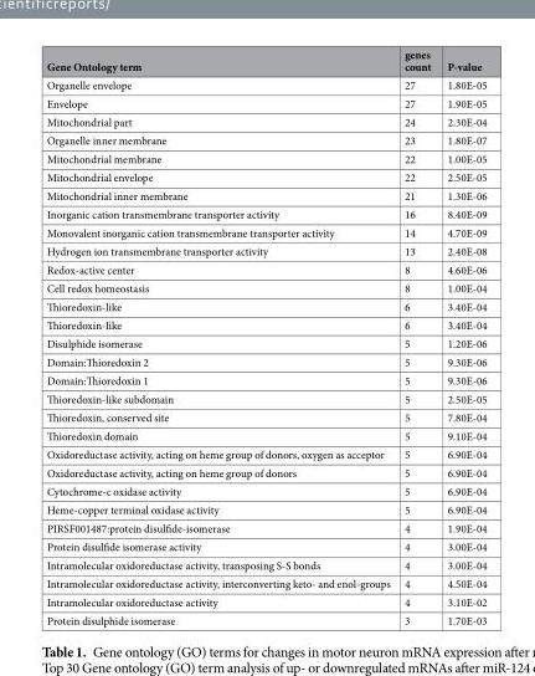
<table><thead><tr><td>Gene Ontology term</td><td>genes count</td><td>P-value</td></tr></thead><tbody><tr><td>Organelle envelope</td><td>27</td><td>1.80E-05</td></tr><tr><td>Envelope</td><td>27</td><td>1.90E-05</td></tr><tr><td>Mitochondrial part</td><td>24</td><td>2.30E-04</td></tr><tr><td>Organelle inner membrane</td><td>23</td><td>1.80E-07</td></tr><tr><td>Mitochondrial membrane</td><td>22</td><td>1.00E-05</td></tr><tr><td>Mitochondrial envelope</td><td>22</td><td>2.50E-05</td></tr><tr><td>Mitochondrial inner membrane</td><td>21</td><td>1.30E-06</td></tr><tr><td>Inorganic cation transmembrane transporter activity</td><td>16</td><td>8.40E-09</td></tr><tr><td>Monovalent inorganic cation transmembrane transporter activity</td><td>14</td><td>4.70E-09</td></tr><tr><td>Hydrogen ion transmembrane transporter activity</td><td>13</td><td>2.40E-08</td></tr><tr><td>Redox-active center</td><td>8</td><td>4.60E-06</td></tr><tr><td>Cell redox homeostasis</td><td>8</td><td>1.00E-04</td></tr><tr><td>Thioredoxin-like</td><td>6</td><td>3.40E-04</td></tr><tr><td>Thioredoxin-like</td><td>6</td><td>3.40E-04</td></tr><tr><td>Disulphide isomerase</td><td>5</td><td>1.20E-06</td></tr><tr><td>Domain:Thioredoxin 2</td><td>5</td><td>9.30E-06</td></tr><tr><td>Domain:Thioredoxin 1</td><td>5</td><td>9.30E-06</td></tr><tr><td>Thioredoxin-like subdomain</td><td>5</td><td>2.50E-05</td></tr><tr><td>Thioredoxin, conserved site</td><td>5</td><td>7.80E-04</td></tr><tr><td>Thioredoxin domain</td><td>5</td><td>9.10E-04</td></tr><tr><td>Oxidoreductase activity, acting on heme group of donors, oxygen as acceptor</td><td>5</td><td>6.90E-04</td></tr><tr><td>Oxidoreductase activity, acting on heme group of donors</td><td>5</td><td>6.90E-04</td></tr><tr><td>Cytochrome-c oxidase activity</td><td>5</td><td>6.90E-04</td></tr><tr><td>Heme-copper terminal oxidase activity</td><td>5</td><td>6.90E-04</td></tr><tr><td>PIRSF001487:protein disulfide-isomerase</td><td>4</td><td>1.90E-04</td></tr><tr><td>Protein disulfide isomerase activity</td><td>4</td><td>3.00E-04</td></tr><tr><td>Intramolecular oxidoreductase activity, transposing S-S bonds</td><td>4</td><td>3.00E-04</td></tr><tr><td>Intramolecular oxidoreductase activity, interconverting keto- and enol-groups</td><td>4</td><td>4.50E-04</td></tr><tr><td>Intramolecular oxidoreductase activity</td><td>4</td><td>3.10E-02</td></tr><tr><td>Protein disulphide isomerase</td><td>3</td><td>1.70E-03</td></tr></tbody></table>